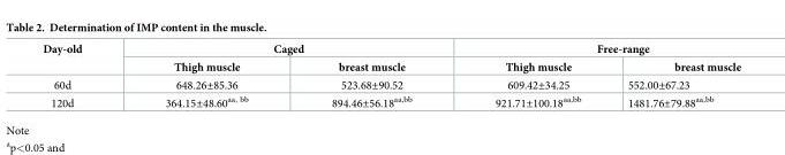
<table><thead><tr><td rowspan="2">Day-old</td><td colspan="2">Caged</td><td colspan="2">Free-range</td></tr><tr><td>Thigh muscle</td><td>breast muscle</td><td>Thigh muscle</td><td>breast muscle</td></tr></thead><tbody><tr><td>60d</td><td>648.26±85.36</td><td>523.68±90.52</td><td>609.42±34.25</td><td>552.00±67.23</td></tr><tr><td>120d</td><td>364.15±48.60<sup>aa, bb</sup></td><td>894.46±56.18<sup>aa,bb</sup></td><td>921.71±100.18<sup>aa,bb</sup></td><td>1481.76±79.88<sup>aa,bb</sup></td></tr></tbody></table>